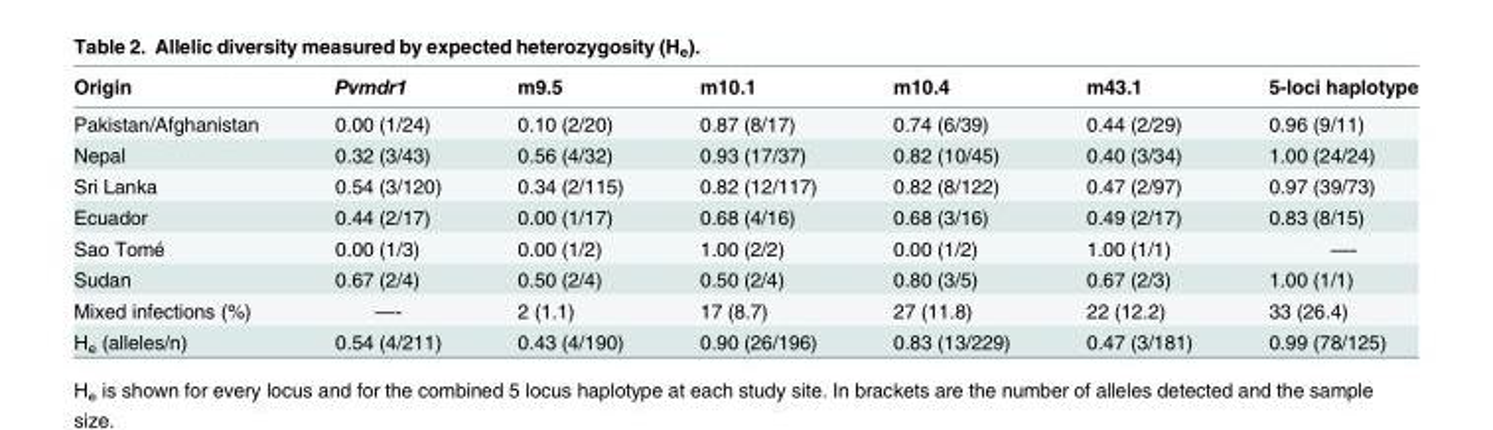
<table><thead><tr><td>Origin</td><td>Pvmdr1</td><td>m9.5</td><td>m10.1</td><td>m10.4</td><td>m43.1</td><td>5-loci haplotype</td></tr></thead><tbody><tr><td>Pakistan/Afghanistan</td><td>0.00 (1/24)</td><td>0.10 (2/20)</td><td>0.87 (8/17)</td><td>0.74 (6/39)</td><td>0.44 (2/29)</td><td>0.96 (9/11)</td></tr><tr><td>Nepal</td><td>0.32 (3/43)</td><td>0.56 (4/32)</td><td>0.93 (17/37)</td><td>0.82 (10/45)</td><td>0.40 (3/34)</td><td>1.00 (24/24)</td></tr><tr><td>Sri Lanka</td><td>0.54 (3/120)</td><td>0.34 (2/115)</td><td>0.82 (12/117)</td><td>0.82 (8/122)</td><td>0.47 (2/97)</td><td>0.97 (39/73)</td></tr><tr><td>Ecuador</td><td>0.44 (2/17)</td><td>0.00 (1/17)</td><td>0.68 (4/16)</td><td>0.68 (3/16)</td><td>0.49 (2/17)</td><td>0.83 (8/15)</td></tr><tr><td>Sao Tomé</td><td>0.00 (1/3)</td><td>0.00 (1/2)</td><td>1.00 (2/2)</td><td>0.00 (1/2)</td><td>1.00 (1/1)</td><td>—-</td></tr><tr><td>Sudan</td><td>0.67 (2/4)</td><td>0.50 (2/4)</td><td>0.50 (2/4)</td><td>0.80 (3/5)</td><td>0.67 (2/3)</td><td>1.00 (1/1)</td></tr><tr><td>Mixed infections (%)</td><td>—-</td><td>2 (1.1)</td><td>17 (8.7)</td><td>27 (11.8)</td><td>22 (12.2)</td><td>33 (26.4)</td></tr><tr><td>H<sub>e</sub> (alleles/n)</td><td>0.54 (4/211)</td><td>0.43 (4/190)</td><td>0.90 (26/196)</td><td>0.83 (13/229)</td><td>0.47 (3/181)</td><td>0.99 (78/125)</td></tr></tbody></table>